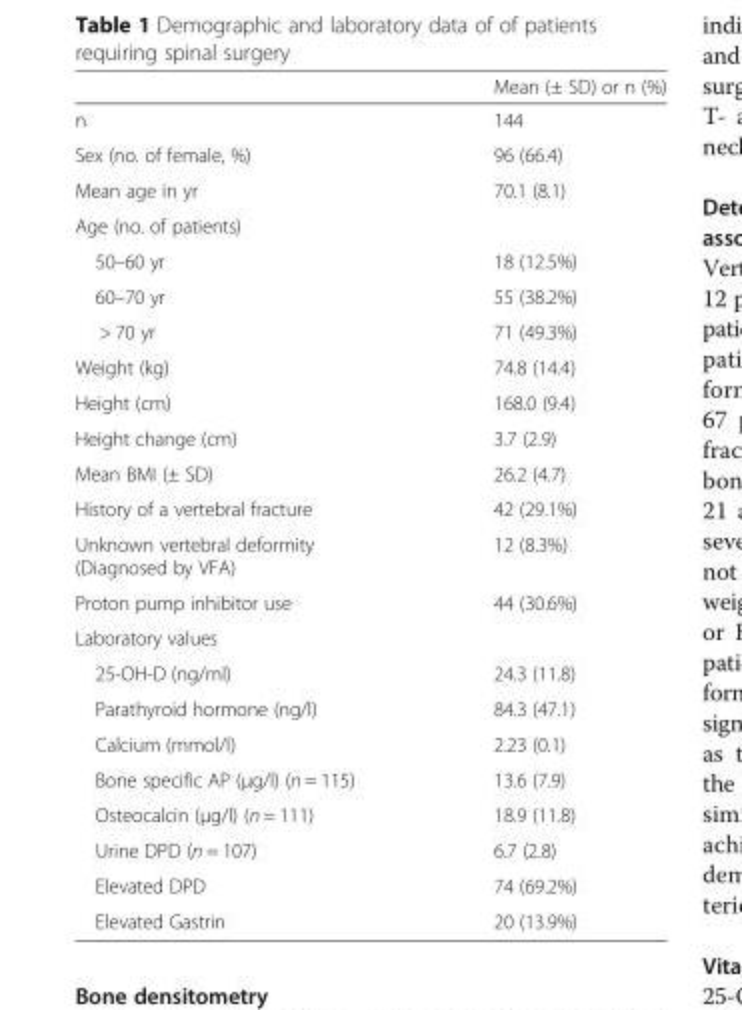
<table><thead><tr><td></td><td>Mean (± SD) or n (%)</td></tr></thead><tbody><tr><td>n</td><td>144</td></tr><tr><td>Sex (no. of female, %)</td><td>96 (66.4)</td></tr><tr><td>Mean age in yr</td><td>70.1 (8.1)</td></tr><tr><td colspan="2">Age (no. of patients)</td></tr><tr><td>50–60 yr</td><td>18 (12.5%)</td></tr><tr><td>60–70 yr</td><td>55 (38.2%)</td></tr><tr><td>&gt; 70 yr</td><td>71 (49.3%)</td></tr><tr><td>Weight (kg)</td><td>74.8 (14.4)</td></tr><tr><td>Height (cm)</td><td>168.0 (9.4)</td></tr><tr><td>Height change (cm)</td><td>3.7 (2.9)</td></tr><tr><td>Mean BMI (± SD)</td><td>26.2 (4.7)</td></tr><tr><td>History of a vertebral fracture</td><td>42 (29.1%)</td></tr><tr><td>Unknown vertebral deformity (Diagnosed by VFA)</td><td>12 (8.3%)</td></tr><tr><td>Proton pump inhibitor use</td><td>44 (30.6%)</td></tr><tr><td colspan="2">Laboratory values</td></tr><tr><td>25-OH-D (ng/ml)</td><td>24.3 (11.8)</td></tr><tr><td>Parathyroid hormone (ng/l)</td><td>84.3 (47.1)</td></tr><tr><td>Calcium (mmol/l)</td><td>2.23 (0.1)</td></tr><tr><td>Bone specific AP (μg/l) (n = 115)</td><td>13.6 (7.9)</td></tr><tr><td>Osteocalcin (μg/l) (n = 111)</td><td>18.9 (11.8)</td></tr><tr><td>Urine DPD (n = 107)</td><td>6.7 (2.8)</td></tr><tr><td>Elevated DPD</td><td>74 (69.2%)</td></tr><tr><td>Elevated Gastrin</td><td>20 (13.9%)</td></tr></tbody></table>